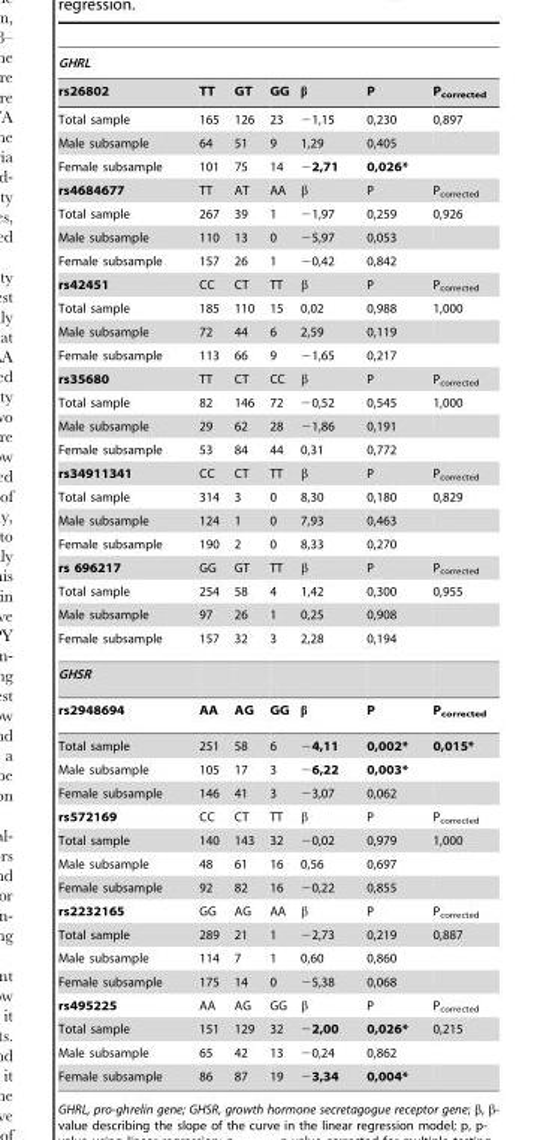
<table><thead><tr><td colspan="7">GHRL</td></tr><tr><td>rs26802</td><td>TT</td><td>GT</td><td>GG</td><td>β</td><td>P</td><td>P<sub>corrected</sub></td></tr></thead><tbody><tr><td>Total sample</td><td>165</td><td>126</td><td>23</td><td>−1,15</td><td>0,230</td><td>0,897</td></tr><tr><td>Male subsample</td><td>64</td><td>51</td><td>9</td><td>1,29</td><td>0,405</td><td></td></tr><tr><td>Female subsample</td><td>101</td><td>75</td><td>14</td><td>−2,71</td><td>0,026*</td><td></td></tr><tr><td>rs4684677</td><td>TT</td><td>AT</td><td>AA</td><td>β</td><td>P</td><td>P<sub>corrected</sub></td></tr><tr><td>Total sample</td><td>267</td><td>39</td><td>1</td><td>−1,97</td><td>0,259</td><td>0,926</td></tr><tr><td>Male subsample</td><td>110</td><td>13</td><td>0</td><td>−5,97</td><td>0,053</td><td></td></tr><tr><td>Female subsample</td><td>157</td><td>26</td><td>1</td><td>−0,42</td><td>0,842</td><td></td></tr><tr><td>rs42451</td><td>CC</td><td>CT</td><td>TT</td><td>β</td><td>P</td><td>P<sub>corrected</sub></td></tr><tr><td>Total sample</td><td>185</td><td>110</td><td>15</td><td>0,02</td><td>0,988</td><td>1,000</td></tr><tr><td>Male subsample</td><td>72</td><td>44</td><td>6</td><td>2,59</td><td>0,119</td><td></td></tr><tr><td>Female subsample</td><td>113</td><td>66</td><td>9</td><td>−1,65</td><td>0,217</td><td></td></tr><tr><td>rs35680</td><td>TT</td><td>CT</td><td>CC</td><td>β</td><td>P</td><td>P<sub>corrected</sub></td></tr><tr><td>Total sample</td><td>82</td><td>146</td><td>72</td><td>−0,52</td><td>0,545</td><td>1,000</td></tr><tr><td>Male subsample</td><td>29</td><td>62</td><td>28</td><td>−1,86</td><td>0,191</td><td></td></tr><tr><td>Female subsample</td><td>53</td><td>84</td><td>44</td><td>0,31</td><td>0,772</td><td></td></tr><tr><td>rs34911341</td><td>CC</td><td>CT</td><td>TT</td><td>β</td><td>P</td><td>P<sub>corrected</sub></td></tr><tr><td>Total sample</td><td>314</td><td>3</td><td>0</td><td>8,30</td><td>0,180</td><td>0,829</td></tr><tr><td>Male subsample</td><td>124</td><td>1</td><td>0</td><td>7,93</td><td>0,463</td><td></td></tr><tr><td>Female subsample</td><td>190</td><td>2</td><td>0</td><td>8,33</td><td>0,270</td><td></td></tr><tr><td>rs 696217</td><td>GG</td><td>GT</td><td>TT</td><td>β</td><td>P</td><td>P<sub>corrected</sub></td></tr><tr><td>Total sample</td><td>254</td><td>58</td><td>4</td><td>1,42</td><td>0,300</td><td>0,955</td></tr><tr><td>Male subsample</td><td>97</td><td>26</td><td>1</td><td>0,25</td><td>0,908</td><td></td></tr><tr><td>Female subsample</td><td>157</td><td>32</td><td>3</td><td>2,28</td><td>0,194</td><td></td></tr><tr><td colspan="7">GHSR</td></tr><tr><td>rs2948694</td><td>AA</td><td>AG</td><td>GG</td><td>β</td><td>P</td><td>P<sub>corrected</sub></td></tr><tr><td>Total sample</td><td>251</td><td>58</td><td>6</td><td>−4,11</td><td>0,002*</td><td>0,015*</td></tr><tr><td>Male subsample</td><td>105</td><td>17</td><td>3</td><td>−6,22</td><td>0,003*</td><td></td></tr><tr><td>Female subsample</td><td>146</td><td>41</td><td>3</td><td>−3,07</td><td>0,062</td><td></td></tr><tr><td>rs572169</td><td>CC</td><td>CT</td><td>TT</td><td>β</td><td>P</td><td>P<sub>corrected</sub></td></tr><tr><td>Total sample</td><td>140</td><td>143</td><td>32</td><td>−0,02</td><td>0,979</td><td>1,000</td></tr><tr><td>Male subsample</td><td>48</td><td>61</td><td>16</td><td>0,56</td><td>0,697</td><td></td></tr><tr><td>Female subsample</td><td>92</td><td>82</td><td>16</td><td>−0,22</td><td>0,855</td><td></td></tr><tr><td>rs2232165</td><td>GG</td><td>AG</td><td>AA</td><td>β</td><td>P</td><td>P<sub>corrected</sub></td></tr><tr><td>Total sample</td><td>289</td><td>21</td><td>1</td><td>−2,73</td><td>0,219</td><td>0,887</td></tr><tr><td>Male subsample</td><td>114</td><td>7</td><td>1</td><td>0,60</td><td>0,860</td><td></td></tr><tr><td>Female subsample</td><td>175</td><td>14</td><td>0</td><td>−5,38</td><td>0,068</td><td></td></tr><tr><td>rs495225</td><td>AA</td><td>AG</td><td>GG</td><td>β</td><td>P</td><td>P<sub>corrected</sub></td></tr><tr><td>Total sample</td><td>151</td><td>129</td><td>32</td><td>−2,00</td><td>0,026*</td><td>0,215</td></tr><tr><td>Male subsample</td><td>65</td><td>42</td><td>13</td><td>−0,24</td><td>0,862</td><td></td></tr><tr><td>Female subsample</td><td>86</td><td>87</td><td>19</td><td>−3,34</td><td>0,004*</td><td></td></tr></tbody></table>